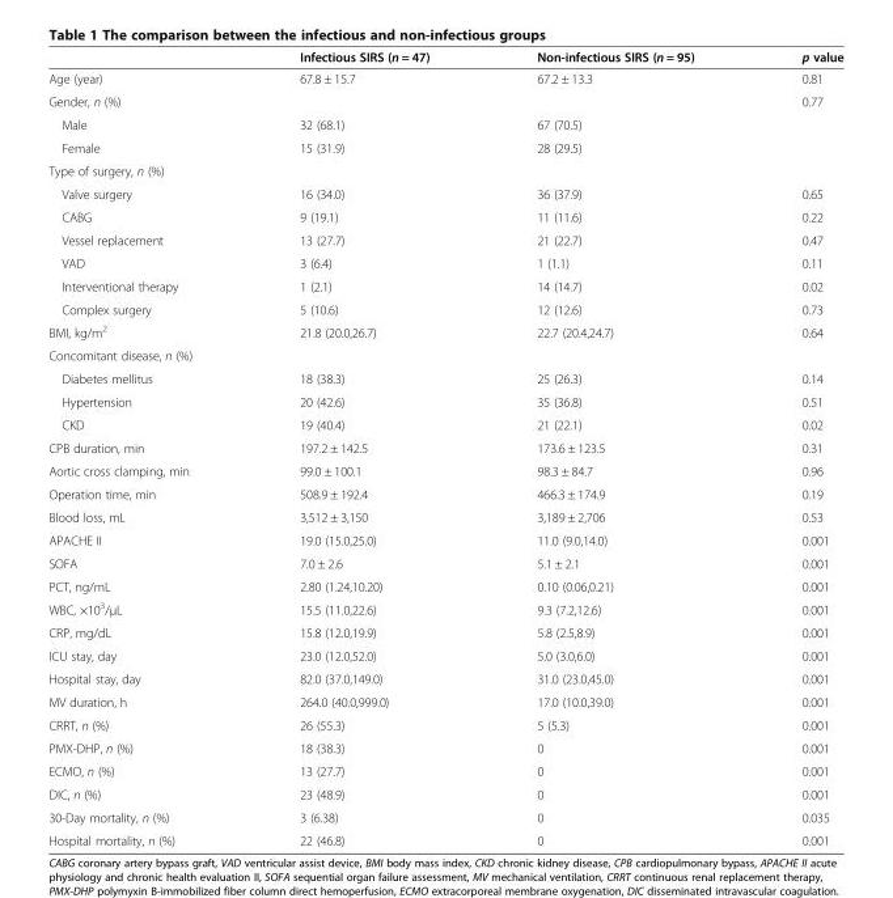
<table><thead><tr><td></td><td>Infectious SIRS (n = 47)</td><td>Non-infectious SIRS (n = 95)</td><td>p value</td></tr></thead><tbody><tr><td>Age (year)</td><td>67.8 ± 15.7</td><td>67.2 ± 13.3</td><td>0.81</td></tr><tr><td>Gender, n (%)</td><td></td><td></td><td>0.77</td></tr><tr><td>Male</td><td>32 (68.1)</td><td>67 (70.5)</td><td></td></tr><tr><td>Female</td><td>15 (31.9)</td><td>28 (29.5)</td><td></td></tr><tr><td colspan="4">Type of surgery, n (%)</td></tr><tr><td>Valve surgery</td><td>16 (34.0)</td><td>36 (37.9)</td><td>0.65</td></tr><tr><td>CABG</td><td>9 (19.1)</td><td>11 (11.6)</td><td>0.22</td></tr><tr><td>Vessel replacement</td><td>13 (27.7)</td><td>21 (22.7)</td><td>0.47</td></tr><tr><td>VAD</td><td>3 (6.4)</td><td>1 (1.1)</td><td>0.11</td></tr><tr><td>Interventional therapy</td><td>1 (2.1)</td><td>14 (14.7)</td><td>0.02</td></tr><tr><td>Complex surgery</td><td>5 (10.6)</td><td>12 (12.6)</td><td>0.73</td></tr><tr><td>BMI, kg/m<sup>2</sup></td><td>21.8 (20.0,26.7)</td><td>22.7 (20.4,24.7)</td><td>0.64</td></tr><tr><td colspan="4">Concomitant disease, n (%)</td></tr><tr><td>Diabetes mellitus</td><td>18 (38.3)</td><td>25 (26.3)</td><td>0.14</td></tr><tr><td>Hypertension</td><td>20 (42.6)</td><td>35 (36.8)</td><td>0.51</td></tr><tr><td>CKD</td><td>19 (40.4)</td><td>21 (22.1)</td><td>0.02</td></tr><tr><td>CPB duration, min</td><td>197.2 ± 142.5</td><td>173.6 ± 123.5</td><td>0.31</td></tr><tr><td>Aortic cross clamping, min</td><td>99.0 ± 100.1</td><td>98.3 ± 84.7</td><td>0.96</td></tr><tr><td>Operation time, min</td><td>508.9 ± 192.4</td><td>466.3 ± 174.9</td><td>0.19</td></tr><tr><td>Blood loss, mL</td><td>3,512 ± 3,150</td><td>3,189 ± 2,706</td><td>0.53</td></tr><tr><td>APACHE II</td><td>19.0 (15.0,25.0)</td><td>11.0 (9.0,14.0)</td><td>0.001</td></tr><tr><td>SOFA</td><td>7.0 ± 2.6</td><td>5.1 ± 2.1</td><td>0.001</td></tr><tr><td>PCT, ng/mL</td><td>2.80 (1.24,10.20)</td><td>0.10 (0.06,0.21)</td><td>0.001</td></tr><tr><td>WBC, ×10<sup>3</sup>/μL</td><td>15.5 (11.0,22.6)</td><td>9.3 (7.2,12.6)</td><td>0.001</td></tr><tr><td>CRP, mg/dL</td><td>15.8 (12.0,19.9)</td><td>5.8 (2.5,8.9)</td><td>0.001</td></tr><tr><td>ICU stay, day</td><td>23.0 (12.0,52.0)</td><td>5.0 (3.0,6.0)</td><td>0.001</td></tr><tr><td>Hospital stay, day</td><td>82.0 (37.0,149.0)</td><td>31.0 (23.0,45.0)</td><td>0.001</td></tr><tr><td>MV duration, h</td><td>264.0 (40.0,999.0)</td><td>17.0 (10.0,39.0)</td><td>0.001</td></tr><tr><td>CRRT, n (%)</td><td>26 (55.3)</td><td>5 (5.3)</td><td>0.001</td></tr><tr><td>PMX-DHP, n (%)</td><td>18 (38.3)</td><td>0</td><td>0.001</td></tr><tr><td>ECMO, n (%)</td><td>13 (27.7)</td><td>0</td><td>0.001</td></tr><tr><td>DIC, n (%)</td><td>23 (48.9)</td><td>0</td><td>0.001</td></tr><tr><td>30-Day mortality, n (%)</td><td>3 (6.38)</td><td>0</td><td>0.035</td></tr><tr><td>Hospital mortality, n (%)</td><td>22 (46.8)</td><td>0</td><td>0.001</td></tr></tbody></table>